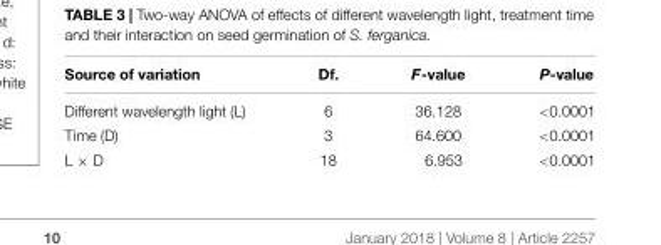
<table><thead><tr><td>Source of variation</td><td>Df.</td><td>F-value</td><td>P-value</td></tr></thead><tbody><tr><td>Different wavelength light (L)</td><td>6</td><td>36.128</td><td>&lt;0.0001</td></tr><tr><td>Time (D)</td><td>3</td><td>64.600</td><td>&lt;0.0001</td></tr><tr><td>L × D</td><td>18</td><td>6.953</td><td>&lt;0.0001</td></tr></tbody></table>